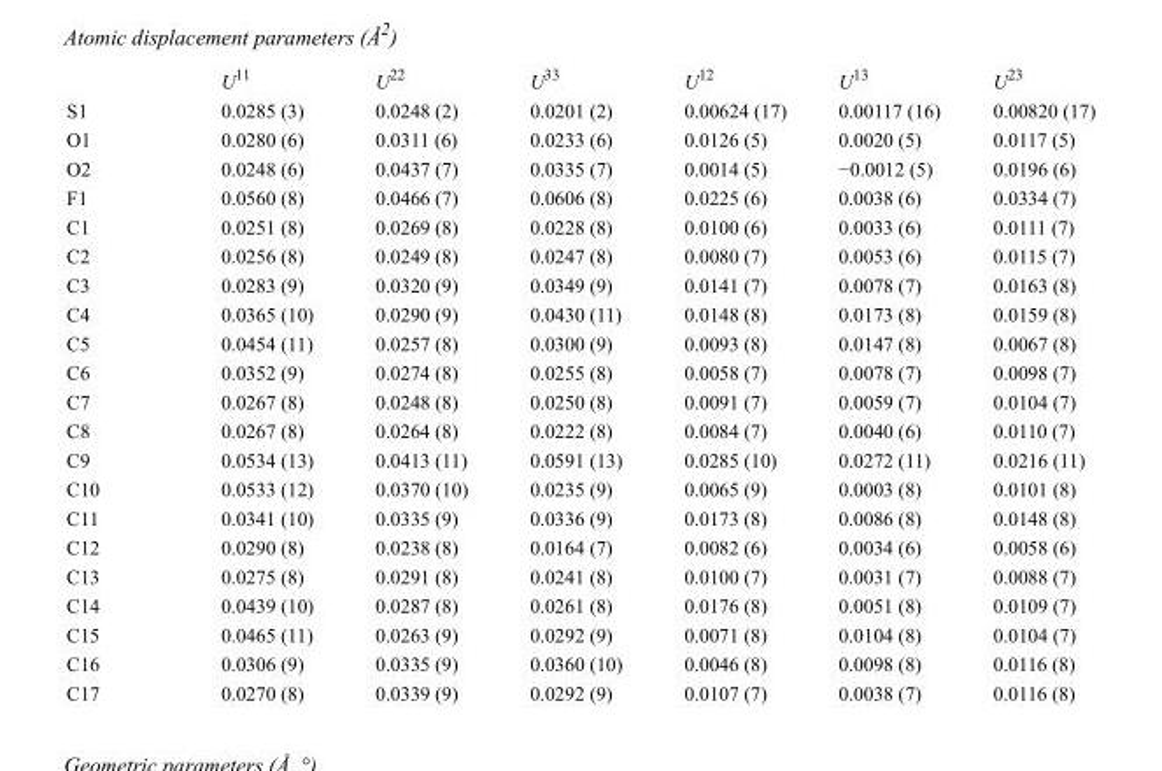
<table><thead><tr><td></td><td>U<sup>11</sup></td><td>U<sup>22</sup></td><td>U<sup>33</sup></td><td>U<sup>12</sup></td><td>U<sup>13</sup></td><td>U<sup>23</sup></td></tr></thead><tbody><tr><td>S1</td><td>0.0285 (3)</td><td>0.0248 (2)</td><td>0.0201 (2)</td><td>0.00624 (17)</td><td>0.00117 (16)</td><td>0.00820 (17)</td></tr><tr><td>O1</td><td>0.0280 (6)</td><td>0.0311 (6)</td><td>0.0233 (6)</td><td>0.0126 (5)</td><td>0.0020 (5)</td><td>0.0117 (5)</td></tr><tr><td>O2</td><td>0.0248 (6)</td><td>0.0437 (7)</td><td>0.0335 (7)</td><td>0.0014 (5)</td><td>−0.0012 (5)</td><td>0.0196 (6)</td></tr><tr><td>F1</td><td>0.0560 (8)</td><td>0.0466 (7)</td><td>0.0606 (8)</td><td>0.0225 (6)</td><td>0.0038 (6)</td><td>0.0334 (7)</td></tr><tr><td>C1</td><td>0.0251 (8)</td><td>0.0269 (8)</td><td>0.0228 (8)</td><td>0.0100 (6)</td><td>0.0033 (6)</td><td>0.0111 (7)</td></tr><tr><td>C2</td><td>0.0256 (8)</td><td>0.0249 (8)</td><td>0.0247 (8)</td><td>0.0080 (7)</td><td>0.0053 (6)</td><td>0.0115 (7)</td></tr><tr><td>C3</td><td>0.0283 (9)</td><td>0.0320 (9)</td><td>0.0349 (9)</td><td>0.0141 (7)</td><td>0.0078 (7)</td><td>0.0163 (8)</td></tr><tr><td>C4</td><td>0.0365 (10)</td><td>0.0290 (9)</td><td>0.0430 (11)</td><td>0.0148 (8)</td><td>0.0173 (8)</td><td>0.0159 (8)</td></tr><tr><td>C5</td><td>0.0454 (11)</td><td>0.0257 (8)</td><td>0.0300 (9)</td><td>0.0093 (8)</td><td>0.0147 (8)</td><td>0.0067 (8)</td></tr><tr><td>C6</td><td>0.0352 (9)</td><td>0.0274 (8)</td><td>0.0255 (8)</td><td>0.0058 (7)</td><td>0.0078 (7)</td><td>0.0098 (7)</td></tr><tr><td>C7</td><td>0.0267 (8)</td><td>0.0248 (8)</td><td>0.0250 (8)</td><td>0.0091 (7)</td><td>0.0059 (7)</td><td>0.0104 (7)</td></tr><tr><td>C8</td><td>0.0267 (8)</td><td>0.0264 (8)</td><td>0.0222 (8)</td><td>0.0084 (7)</td><td>0.0040 (6)</td><td>0.0110 (7)</td></tr><tr><td>C9</td><td>0.0534 (13)</td><td>0.0413 (11)</td><td>0.0591 (13)</td><td>0.0285 (10)</td><td>0.0272 (11)</td><td>0.0216 (11)</td></tr><tr><td>C10</td><td>0.0533 (12)</td><td>0.0370 (10)</td><td>0.0235 (9)</td><td>0.0065 (9)</td><td>0.0003 (8)</td><td>0.0101 (8)</td></tr><tr><td>C11</td><td>0.0341 (10)</td><td>0.0335 (9)</td><td>0.0336 (9)</td><td>0.0173 (8)</td><td>0.0086 (8)</td><td>0.0148 (8)</td></tr><tr><td>C12</td><td>0.0290 (8)</td><td>0.0238 (8)</td><td>0.0164 (7)</td><td>0.0082 (6)</td><td>0.0034 (6)</td><td>0.0058 (6)</td></tr><tr><td>C13</td><td>0.0275 (8)</td><td>0.0291 (8)</td><td>0.0241 (8)</td><td>0.0100 (7)</td><td>0.0031 (7)</td><td>0.0088 (7)</td></tr><tr><td>C14</td><td>0.0439 (10)</td><td>0.0287 (8)</td><td>0.0261 (8)</td><td>0.0176 (8)</td><td>0.0051 (8)</td><td>0.0109 (7)</td></tr><tr><td>C15</td><td>0.0465 (11)</td><td>0.0263 (9)</td><td>0.0292 (9)</td><td>0.0071 (8)</td><td>0.0104 (8)</td><td>0.0104 (7)</td></tr><tr><td>C16</td><td>0.0306 (9)</td><td>0.0335 (9)</td><td>0.0360 (10)</td><td>0.0046 (8)</td><td>0.0098 (8)</td><td>0.0116 (8)</td></tr><tr><td>C17</td><td>0.0270 (8)</td><td>0.0339 (9)</td><td>0.0292 (9)</td><td>0.0107 (7)</td><td>0.0038 (7)</td><td>0.0116 (8)</td></tr></tbody></table>